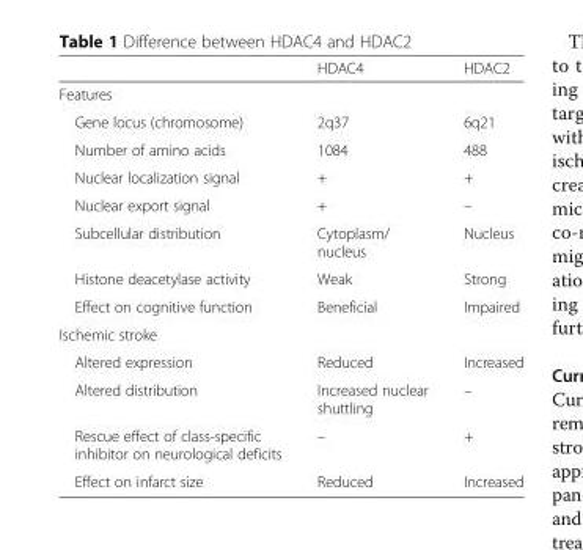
<table><thead><tr><td></td><td>HDAC4</td><td>HDAC2</td></tr></thead><tbody><tr><td colspan="3">Features</td></tr><tr><td>Gene locus (chromosome)</td><td>2q37</td><td>6q21</td></tr><tr><td>Number of amino acids</td><td>1084</td><td>488</td></tr><tr><td>Nuclear localization signal</td><td>+</td><td>+</td></tr><tr><td>Nuclear export signal</td><td>+</td><td>–</td></tr><tr><td>Subcellular distribution</td><td>Cytoplasm/ nucleus</td><td>Nucleus</td></tr><tr><td>Histone deacetylase activity</td><td>Weak</td><td>Strong</td></tr><tr><td>Effect on cognitive function</td><td>Beneficial</td><td>Impaired</td></tr><tr><td colspan="3">Ischemic stroke</td></tr><tr><td>Altered expression</td><td>Reduced</td><td>Increased</td></tr><tr><td>Altered distribution</td><td>Increased nuclear shuttling</td><td>–</td></tr><tr><td>Rescue effect of class-specific inhibitor on neurological deficits</td><td>–</td><td>+</td></tr><tr><td>Effect on infarct size</td><td>Reduced</td><td>Increased</td></tr></tbody></table>